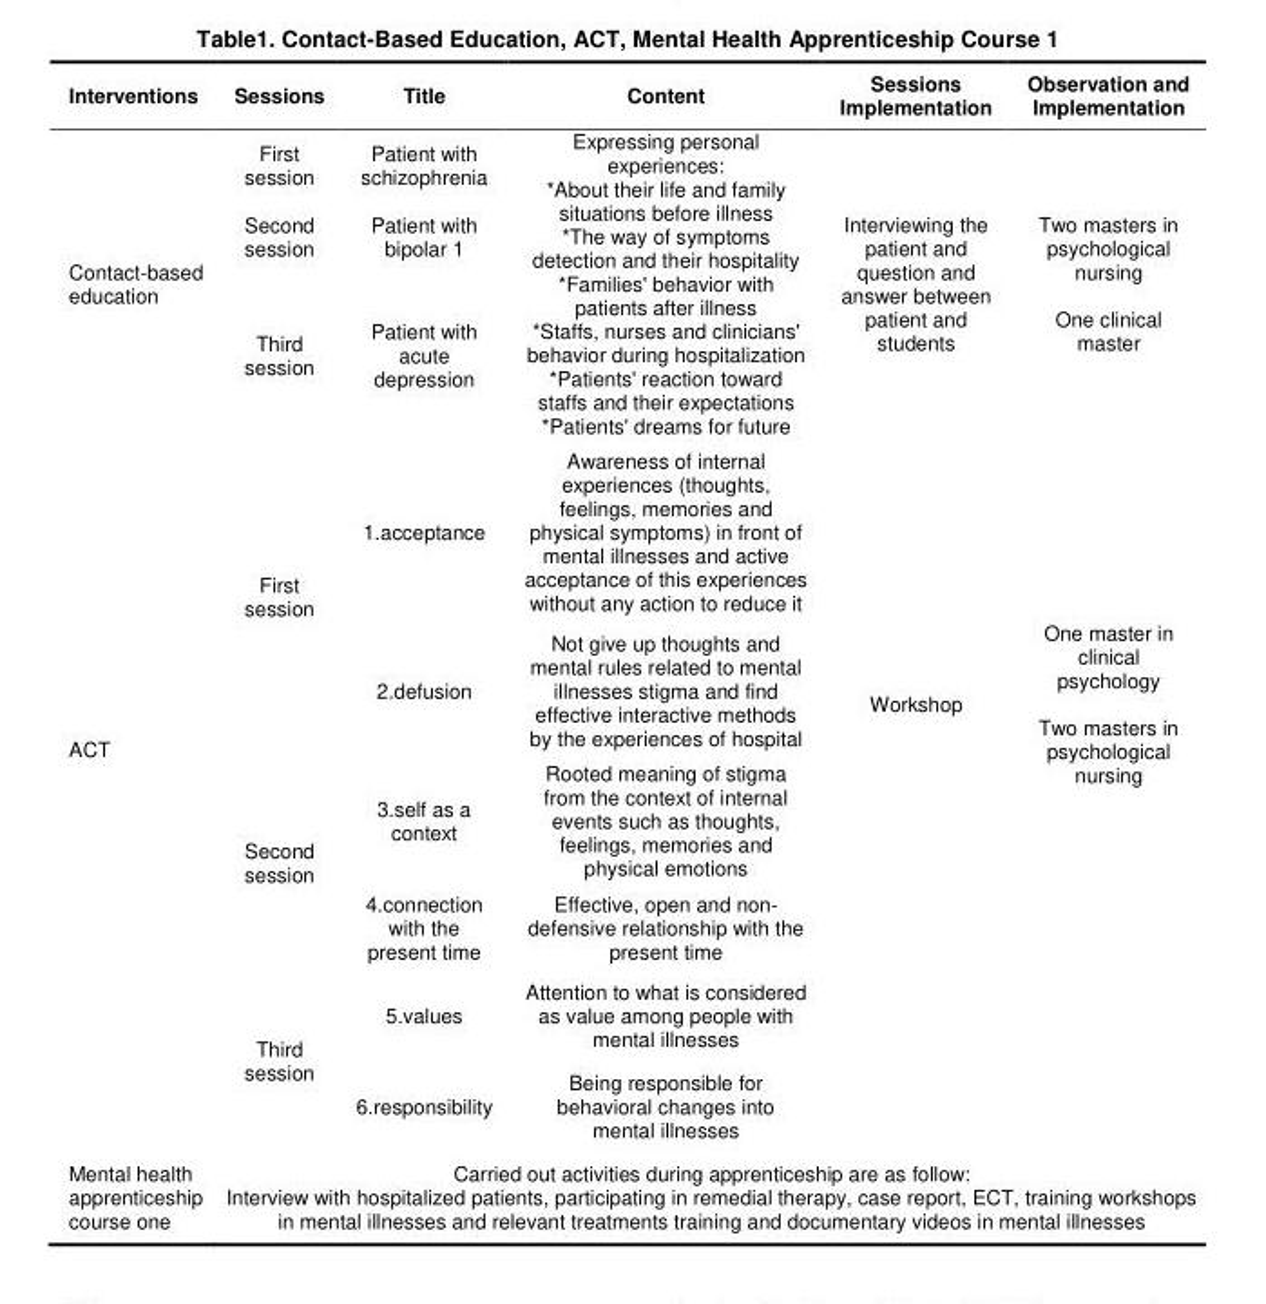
<table><thead><tr><td>Interventions</td><td>Sessions</td><td>Title</td><td>Content</td><td>Sessions Implementation</td><td>Observation and Implementation</td></tr></thead><tbody><tr><td rowspan="3">Contact-based education</td><td>First session</td><td>Patient with schizophrenia</td><td rowspan="3">Expressing personal experiences: *About their life and family situations before illness *The way of symptoms detection and their hospitality *Families&#x27; behavior with patients after illness *Staffs, nurses and clinicians&#x27; behavior during hospitalization *Patients&#x27; reaction toward staffs and their expectations *Patients&#x27; dreams for future</td><td rowspan="3">Interviewing the patient and question and answer between patient and students</td><td rowspan="3">Two masters in psychological nursing One clinical master</td></tr><tr><td>Second session</td><td>Patient with bipolar 1</td></tr><tr><td>Third session</td><td>Patient with acute depression</td></tr><tr><td rowspan="6">ACT</td><td rowspan="2">First session</td><td>1.acceptance</td><td>Awareness of internal experiences (thoughts, feelings, memories and physical symptoms) in front of mental illnesses and active acceptance of this experiences without any action to reduce it</td><td rowspan="4">Workshop</td><td rowspan="4">One master in clinical psychology Two masters in psychological nursing</td></tr><tr><td>2.defusion</td><td>Not give up thoughts and mental rules related to mental illnesses stigma and find effective interactive methods by the experiences of hospital</td></tr><tr><td rowspan="2">Second session</td><td>3.self as a context</td><td>Rooted meaning of stigma from the context of internal events such as thoughts, feelings, memories and physical emotions</td></tr><tr><td>4.connection with the present time</td><td>Effective, open and non- defensive relationship with the present time</td></tr><tr><td rowspan="2">Third session</td><td>5.values</td><td>Attention to what is considered as value among people with mental illnesses</td><td></td><td></td></tr><tr><td>6.responsibility</td><td>Being responsible for behavioral changes into mental illnesses</td><td></td><td></td></tr><tr><td>Mental health apprenticeship course one</td><td colspan="5">Carried out activities during apprenticeship are as follow: Interview with hospitalized patients, participating in remedial therapy, case report, ECT, training workshops in mental illnesses and relevant treatments training and documentary videos in mental illnesses</td></tr></tbody></table>